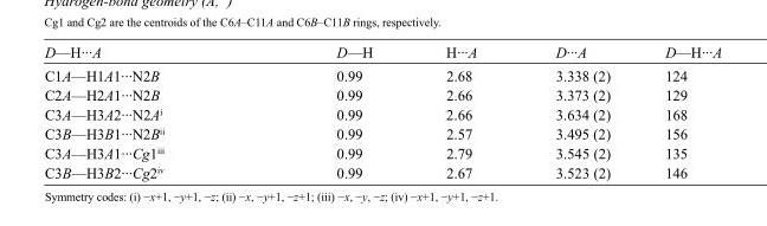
<table><tbody><tr><td>D—H···A</td><td>D—H</td><td>H···A</td><td>D···A</td><td>D—H···A</td></tr><tr><td>C1A—H1A1···N2B</td><td>0.99</td><td>2.68</td><td>3.338 (2)</td><td>124</td></tr><tr><td>C2A—H2A1···N2B</td><td>0.99</td><td>2.66</td><td>3.373 (2)</td><td>129</td></tr><tr><td>C3A—H3A2···N2A<sup>i</sup></td><td>0.99</td><td>2.66</td><td>3.634 (2)</td><td>168</td></tr><tr><td>C3B—H3B1···N2B<sup>ii</sup></td><td>0.99</td><td>2.57</td><td>3.495 (2)</td><td>156</td></tr><tr><td>C3A—H3A1···Cg1<sup>iii</sup></td><td>0.99</td><td>2.79</td><td>3.545 (2)</td><td>135</td></tr><tr><td>C3B—H3B2···Cg2<sup>iv</sup></td><td>0.99</td><td>2.67</td><td>3.523 (2)</td><td>146</td></tr></tbody></table>